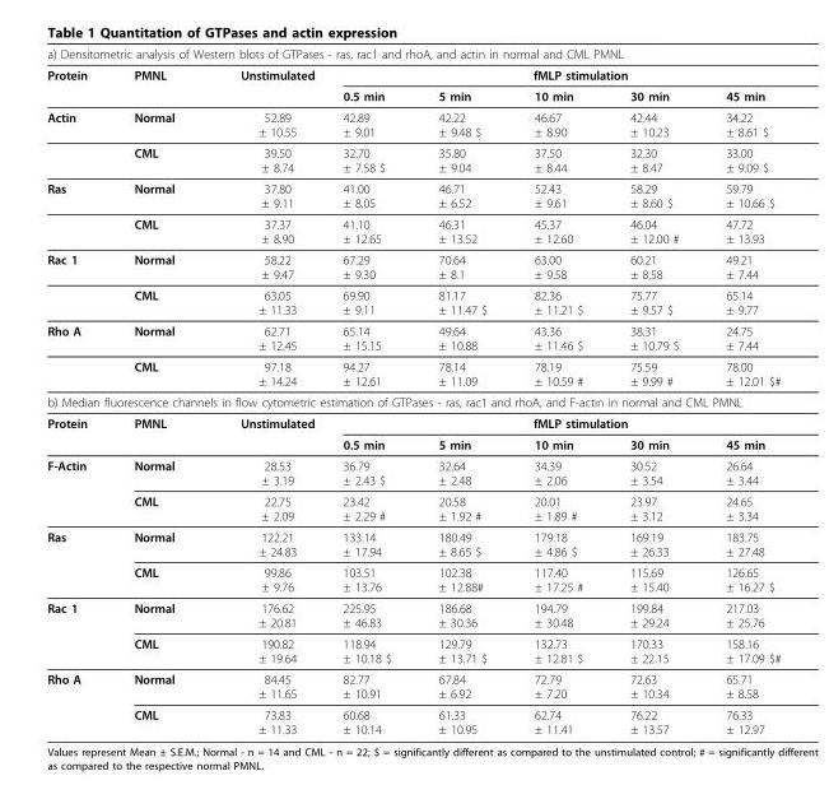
<table><thead><tr><td colspan="8">a) Densitometric analysis of Western blots of GTPases - ras, rac1 and rhoA, and actin in normal and CML PMNL</td></tr><tr><td rowspan="2">Protein</td><td rowspan="2">PMNL</td><td rowspan="2">Unstimulated</td><td colspan="5">fMLP stimulation</td></tr><tr><td>0.5 min</td><td>5 min</td><td>10 min</td><td>30 min</td><td>45 min</td></tr></thead><tbody><tr><td rowspan="2">Actin</td><td>Normal</td><td>52.89 ± 10.55</td><td>42.89 ± 9.01</td><td>42.22 ± 9.48 $</td><td>46.67 ± 8.90</td><td>42.44 ± 10.23</td><td>34.22 ± 8.61 $</td></tr><tr><td>CML</td><td>39.50 ± 8.74</td><td>32.70 ± 7.58 $</td><td>35.80 ± 9.04</td><td>37.50 ± 8.44</td><td>32.30 ± 8.47</td><td>33.00 ± 9.09 $</td></tr><tr><td rowspan="2">Ras</td><td>Normal</td><td>37.80 ± 9.11</td><td>41.00 ± 8.05</td><td>46.71 ± 6.52</td><td>52.43 ± 9.61</td><td>58.29 ± 8.60 $</td><td>59.79 ± 10.66 $</td></tr><tr><td>CML</td><td>37.37 ± 8.90</td><td>41.10 ± 12.65</td><td>46.31 ± 13.52</td><td>45.37 ± 12.60</td><td>46.04 ± 12.00 #</td><td>47.72 ± 13.93</td></tr><tr><td rowspan="2">Rac 1</td><td>Normal</td><td>58.22 ± 9.47</td><td>67.29 ± 9.30</td><td>70.64 ± 8.1</td><td>63.00 ± 9.58</td><td>60.21 ± 8.58</td><td>49.21 ± 7.44</td></tr><tr><td>CML</td><td>63.05 ± 11.33</td><td>69.90 ± 9.11</td><td>81.17 ± 11.47 $</td><td>82.36 ± 11.21 $</td><td>75.77 ± 9.57 $</td><td>65.14 ± 9.77</td></tr><tr><td rowspan="2">Rho A</td><td>Normal</td><td>62.71 ± 12.45</td><td>65.14 ± 15.15</td><td>49.64 ± 10.88</td><td>43.36 ± 11.46 $</td><td>38.31 ± 10.79 $</td><td>24.75 ± 7.44</td></tr><tr><td>CML</td><td>97.18 ± 14.24</td><td>94.27 ± 12.61</td><td>78.14 ± 11.09</td><td>78.19 ± 10.59 #</td><td>75.59 ± 9.99 #</td><td>78.00 ± 12.01 $#</td></tr><tr><td colspan="8">b) Median fluorescence channels in flow cytometric estimation of GTPases - ras, rac1 and rhoA, and F-actin in normal and CML PMNL</td></tr><tr><td rowspan="2">Protein</td><td>PMNL</td><td>Unstimulated</td><td colspan="5">fMLP stimulation</td></tr><tr><td></td><td></td><td>0.5 min</td><td>5 min</td><td>10 min</td><td>30 min</td><td>45 min</td></tr><tr><td rowspan="2">F-Actin</td><td>Normal</td><td>28.53 ± 3.19</td><td>36.79 ± 2.43 $</td><td>32.64 ± 2.48</td><td>34.39 ± 2.06</td><td>30.52 ± 3.54</td><td>26.64 ± 3.44</td></tr><tr><td>CML</td><td>22.75 ± 2.09</td><td>23.42 ± 2.29 #</td><td>20.58 ± 1.92 #</td><td>20.01 ± 1.89 #</td><td>23.97 ± 3.12</td><td>24.65 ± 3.34</td></tr><tr><td rowspan="2">Ras</td><td>Normal</td><td>122.21 ± 24.83</td><td>133.14 ± 17.94</td><td>180.49 ± 8.65 $</td><td>179.18 ± 4.86 $</td><td>169.19 ± 26.33</td><td>183.75 ± 27.48</td></tr><tr><td>CML</td><td>99.86 ± 9.76</td><td>103.51 ± 13.76</td><td>102.38 ± 12.88#</td><td>117.40 ± 17.25 #</td><td>115.69 ± 15.40</td><td>126.65 ± 16.27 $</td></tr><tr><td rowspan="2">Rac 1</td><td>Normal</td><td>176.62 ± 20.81</td><td>225.95 ± 46.83</td><td>186.68 ± 30.36</td><td>194.79 ± 30.48</td><td>199.84 ± 29.24</td><td>217.03 ± 25.76</td></tr><tr><td>CML</td><td>190.82 ± 19.64</td><td>118.94 ± 10.18 $</td><td>129.79 ± 13.71 $</td><td>132.73 ± 12.81 $</td><td>170.33 ± 22.15</td><td>158.16 ± 17.09 $#</td></tr><tr><td rowspan="2">Rho A</td><td>Normal</td><td>84.45 ± 11.65</td><td>82.77 ± 10.91</td><td>67.84 ± 6.92</td><td>72.79 ± 7.20</td><td>72.63 ± 10.34</td><td>65.71 ± 8.58</td></tr><tr><td>CML</td><td>73.83 ± 11.33</td><td>60.68 ± 10.14</td><td>61.33 ± 10.95</td><td>62.74 ± 11.41</td><td>76.22 ± 13.57</td><td>76.33 ± 12.97</td></tr></tbody></table>